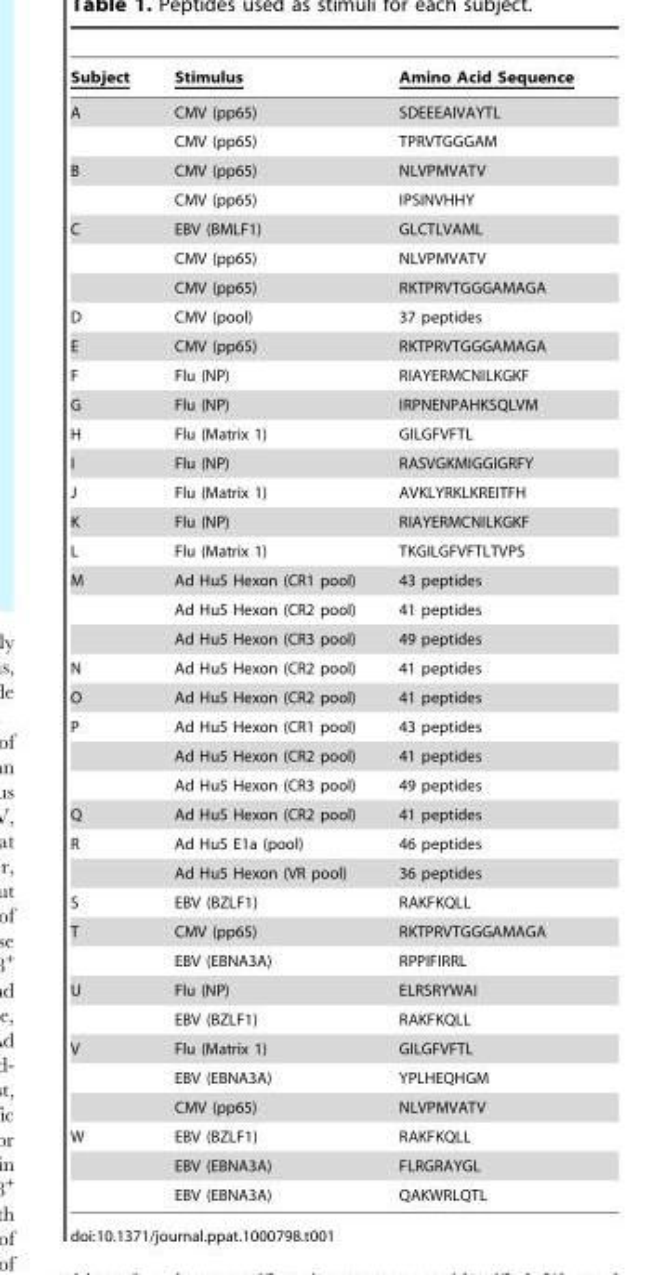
<table><thead><tr><td>Subject</td><td>Stimulus</td><td>Amino Acid Sequence</td></tr></thead><tbody><tr><td rowspan="2">A</td><td>CMV (pp65)</td><td>SDEEEAIVAYTL</td></tr><tr><td>CMV (pp65)</td><td>TPRVTGGGAM</td></tr><tr><td rowspan="2">B</td><td>CMV (pp65)</td><td>NLVPMVATV</td></tr><tr><td>CMV (pp65)</td><td>IPSINVHHY</td></tr><tr><td rowspan="3">C</td><td>EBV (BMLF1)</td><td>GLCTLVAML</td></tr><tr><td>CMV (pp65)</td><td>NLVPMVATV</td></tr><tr><td>CMV (pp65)</td><td>RKTPRVTGGGAMAGA</td></tr><tr><td>D</td><td>CMV (pool)</td><td>37 peptides</td></tr><tr><td>E</td><td>CMV (pp65)</td><td>RKTPRVTGGGAMAGA</td></tr><tr><td>F</td><td>Flu (NP)</td><td>RIAYERMCNILKGKF</td></tr><tr><td>G</td><td>Flu (NP)</td><td>IRPNENPAHKSQLVM</td></tr><tr><td>H</td><td>Flu (Matrix 1)</td><td>GILGFVFTL</td></tr><tr><td>I</td><td>Flu (NP)</td><td>RASVGKMIGGIGRFY</td></tr><tr><td>J</td><td>Flu (Matrix 1)</td><td>AVKLYRKLKREITFH</td></tr><tr><td>K</td><td>Flu (NP)</td><td>RIAYERMCNILKGKF</td></tr><tr><td>L</td><td>Flu (Matrix 1)</td><td>TKGILGFVFTLTVPS</td></tr><tr><td rowspan="3">M</td><td>Ad Hu5 Hexon (CR1 pool)</td><td>43 peptides</td></tr><tr><td>Ad Hu5 Hexon (CR2 pool)</td><td>41 peptides</td></tr><tr><td>Ad Hu5 Hexon (CR3 pool)</td><td>49 peptides</td></tr><tr><td>N</td><td>Ad Hu5 Hexon (CR2 pool)</td><td>41 peptides</td></tr><tr><td>O</td><td>Ad Hu5 Hexon (CR2 pool)</td><td>41 peptides</td></tr><tr><td rowspan="3">P</td><td>Ad Hu5 Hexon (CR1 pool)</td><td>43 peptides</td></tr><tr><td>Ad Hu5 Hexon (CR2 pool)</td><td>41 peptides</td></tr><tr><td>Ad Hu5 Hexon (CR3 pool)</td><td>49 peptides</td></tr><tr><td>Q</td><td>Ad Hu5 Hexon (CR2 pool)</td><td>41 peptides</td></tr><tr><td rowspan="2">R</td><td>Ad Hu5 E1a (pool)</td><td>46 peptides</td></tr><tr><td>Ad Hu5 Hexon (VR pool)</td><td>36 peptides</td></tr><tr><td>S</td><td>EBV (BZLF1)</td><td>RAKFKQLL</td></tr><tr><td rowspan="2">T</td><td>CMV (pp65)</td><td>RKTPRVTGGGAMAGA</td></tr><tr><td>EBV (EBNA3A)</td><td>RPPIFIRRL</td></tr><tr><td rowspan="2">U</td><td>Flu (NP)</td><td>ELRSRYWAI</td></tr><tr><td>EBV (BZLF1)</td><td>RAKFKQLL</td></tr><tr><td rowspan="3">V</td><td>Flu (Matrix 1)</td><td>GILGFVFTL</td></tr><tr><td>EBV (EBNA3A)</td><td>YPLHEQHGM</td></tr><tr><td>CMV (pp65)</td><td>NLVPMVATV</td></tr><tr><td rowspan="3">W</td><td>EBV (BZLF1)</td><td>RAKFKQLL</td></tr><tr><td>EBV (EBNA3A)</td><td>FLRGRAYGL</td></tr><tr><td>EBV (EBNA3A)</td><td>QAKWRLQTL</td></tr></tbody></table>